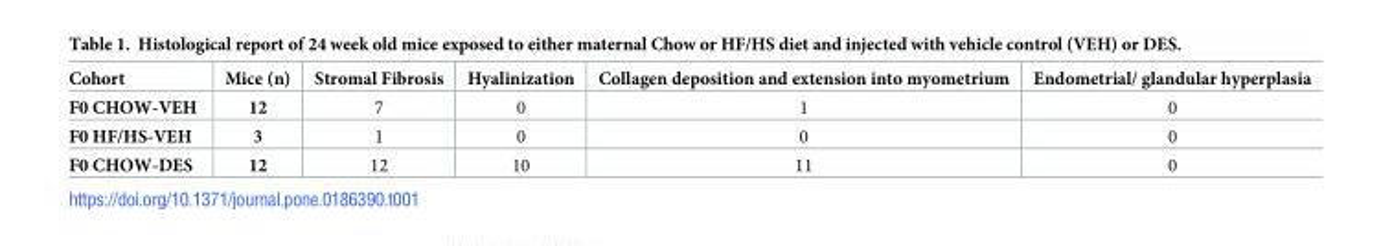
<table><thead><tr><td>Cohort</td><td>Mice (n)</td><td>Stromal Fibrosis</td><td>Hyalinization</td><td>Collagen deposition and extension into myometrium</td><td>Endometrial/ glandular hyperplasia</td></tr></thead><tbody><tr><td>F0 CHOW-VEH</td><td>12</td><td>7</td><td>0</td><td>1</td><td>0</td></tr><tr><td>F0 HF/HS-VEH</td><td>3</td><td>1</td><td>0</td><td>0</td><td>0</td></tr><tr><td>F0 CHOW-DES</td><td>12</td><td>12</td><td>10</td><td>11</td><td>0</td></tr></tbody></table>